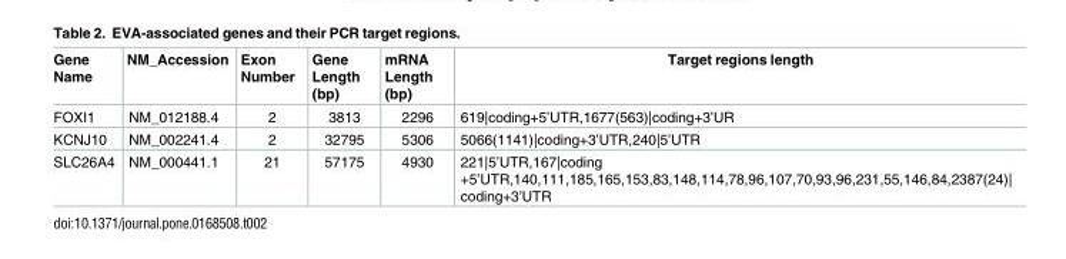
<table><thead><tr><td>Gene Name</td><td>NM_Accession</td><td>Exon Number</td><td>Gene Length (bp)</td><td>mRNA Length (bp)</td><td>Target regions length</td></tr></thead><tbody><tr><td>FOXI1</td><td>NM_012188.4</td><td>2</td><td>3813</td><td>2296</td><td>619|coding+5’UTR,1677(563)|coding+3’UR</td></tr><tr><td>KCNJ10</td><td>NM_002241.4</td><td>2</td><td>32795</td><td>5306</td><td>5066(1141)|coding+3’UTR,240|5’UTR</td></tr><tr><td>SLC26A4</td><td>NM_000441.1</td><td>21</td><td>57175</td><td>4930</td><td>221|5’UTR,167|coding +5’UTR,140,111,185,165,153,83,148,114,78,96,107,70,93,96,231,55,146,84,2387(24)| coding+3’UTR</td></tr></tbody></table>